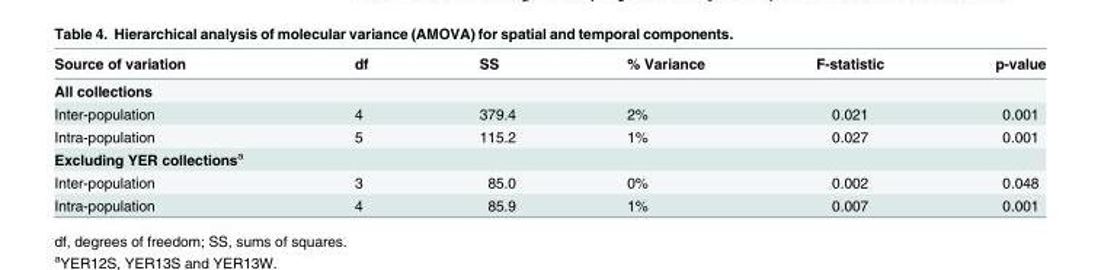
<table><thead><tr><td>Source of variation</td><td>df</td><td>SS</td><td>% Variance</td><td>F-statistic</td><td>p-value</td></tr></thead><tbody><tr><td colspan="6">All collections</td></tr><tr><td>Inter-population</td><td>4</td><td>379.4</td><td>2%</td><td>0.021</td><td>0.001</td></tr><tr><td>Intra-population</td><td>5</td><td>115.2</td><td>1%</td><td>0.027</td><td>0.001</td></tr><tr><td colspan="6">Excluding YER collections<sup>a</sup></td></tr><tr><td>Inter-population</td><td>3</td><td>85.0</td><td>0%</td><td>0.002</td><td>0.048</td></tr><tr><td>Intra-population</td><td>4</td><td>85.9</td><td>1%</td><td>0.007</td><td>0.001</td></tr></tbody></table>